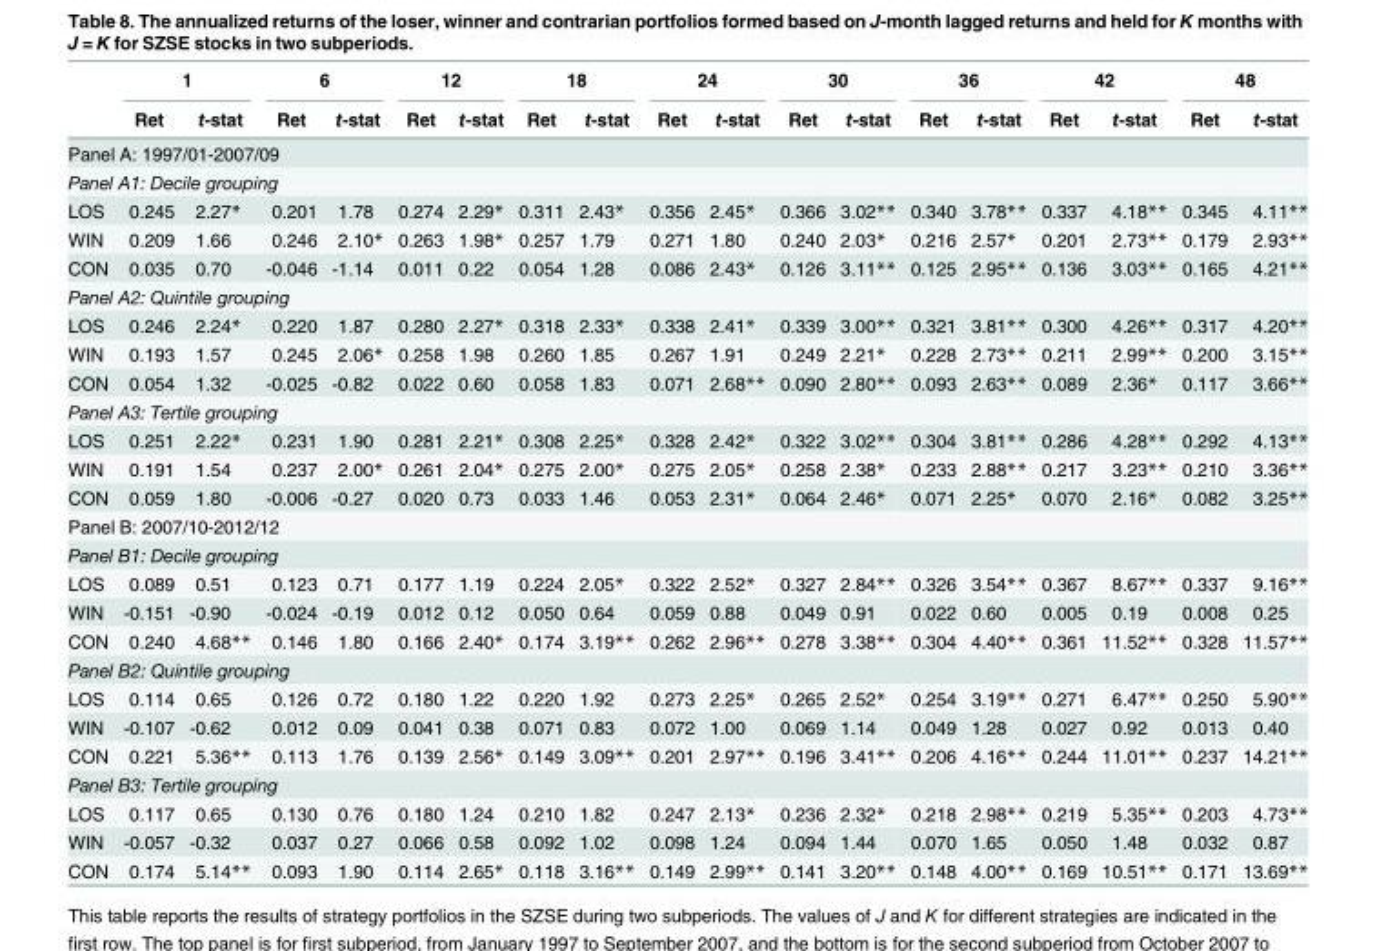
<table><thead><tr><td rowspan="2"></td><td colspan="2">1</td><td colspan="2">6</td><td colspan="2">12</td><td colspan="2">18</td><td colspan="2">24</td><td colspan="2">30</td><td colspan="2">36</td><td colspan="2">42</td><td colspan="2">48</td></tr><tr><td>Ret</td><td>t-stat</td><td>Ret</td><td>t-stat</td><td>Ret</td><td>t-stat</td><td>Ret</td><td>t-stat</td><td>Ret</td><td>t-stat</td><td>Ret</td><td>t-stat</td><td>Ret</td><td>t-stat</td><td>Ret</td><td>t-stat</td><td>Ret</td><td>t-stat</td></tr></thead><tbody><tr><td colspan="19">Panel A: 1997/01-2007/09</td></tr><tr><td colspan="19">Panel A1: Decile grouping</td></tr><tr><td>LOS</td><td>0.245</td><td>2.27*</td><td>0.201</td><td>1.78</td><td>0.274</td><td>2.29*</td><td>0.311</td><td>2.43*</td><td>0.356</td><td>2.45*</td><td>0.366</td><td>3.02**</td><td>0.340</td><td>3.78**</td><td>0.337</td><td>4.18**</td><td>0.345</td><td>4.11**</td></tr><tr><td>WIN</td><td>0.209</td><td>1.66</td><td>0.246</td><td>2.10*</td><td>0.263</td><td>1.98*</td><td>0.257</td><td>1.79</td><td>0.271</td><td>1.80</td><td>0.240</td><td>2.03*</td><td>0.216</td><td>2.57*</td><td>0.201</td><td>2.73**</td><td>0.179</td><td>2.93**</td></tr><tr><td>CON</td><td>0.035</td><td>0.70</td><td>-0.046</td><td>-1.14</td><td>0.011</td><td>0.22</td><td>0.054</td><td>1.28</td><td>0.086</td><td>2.43*</td><td>0.126</td><td>3.11**</td><td>0.125</td><td>2.95**</td><td>0.136</td><td>3.03**</td><td>0.165</td><td>4.21**</td></tr><tr><td colspan="19">Panel A2: Quintile grouping</td></tr><tr><td>LOS</td><td>0.246</td><td>2.24*</td><td>0.220</td><td>1.87</td><td>0.280</td><td>2.27*</td><td>0.318</td><td>2.33*</td><td>0.338</td><td>2.41*</td><td>0.339</td><td>3.00**</td><td>0.321</td><td>3.81**</td><td>0.300</td><td>4.26**</td><td>0.317</td><td>4.20**</td></tr><tr><td>WIN</td><td>0.193</td><td>1.57</td><td>0.245</td><td>2.06*</td><td>0.258</td><td>1.98</td><td>0.260</td><td>1.85</td><td>0.267</td><td>1.91</td><td>0.249</td><td>2.21*</td><td>0.228</td><td>2.73**</td><td>0.211</td><td>2.99**</td><td>0.200</td><td>3.15**</td></tr><tr><td>CON</td><td>0.054</td><td>1.32</td><td>-0.025</td><td>-0.82</td><td>0.022</td><td>0.60</td><td>0.058</td><td>1.83</td><td>0.071</td><td>2.68**</td><td>0.090</td><td>2.80**</td><td>0.093</td><td>2.63**</td><td>0.089</td><td>2.36*</td><td>0.117</td><td>3.66**</td></tr><tr><td colspan="19">Panel A3: Tertile grouping</td></tr><tr><td>LOS</td><td>0.251</td><td>2.22*</td><td>0.231</td><td>1.90</td><td>0.281</td><td>2.21*</td><td>0.308</td><td>2.25*</td><td>0.328</td><td>2.42*</td><td>0.322</td><td>3.02**</td><td>0.304</td><td>3.81**</td><td>0.286</td><td>4.28**</td><td>0.292</td><td>4.13**</td></tr><tr><td>WIN</td><td>0.191</td><td>1.54</td><td>0.237</td><td>2.00*</td><td>0.261</td><td>2.04*</td><td>0.275</td><td>2.00*</td><td>0.275</td><td>2.05*</td><td>0.258</td><td>2.38*</td><td>0.233</td><td>2.88**</td><td>0.217</td><td>3.23**</td><td>0.210</td><td>3.36**</td></tr><tr><td>CON</td><td>0.059</td><td>1.80</td><td>-0.006</td><td>-0.27</td><td>0.020</td><td>0.73</td><td>0.033</td><td>1.46</td><td>0.053</td><td>2.31*</td><td>0.064</td><td>2.46*</td><td>0.071</td><td>2.25*</td><td>0.070</td><td>2.16*</td><td>0.082</td><td>3.25**</td></tr><tr><td colspan="19">Panel B: 2007/10-2012/12</td></tr><tr><td colspan="19">Panel B1: Decile grouping</td></tr><tr><td>LOS</td><td>0.089</td><td>0.51</td><td>0.123</td><td>0.71</td><td>0.177</td><td>1.19</td><td>0.224</td><td>2.05*</td><td>0.322</td><td>2.52*</td><td>0.327</td><td>2.84**</td><td>0.326</td><td>3.54**</td><td>0.367</td><td>8.67**</td><td>0.337</td><td>9.16**</td></tr><tr><td>WIN</td><td>-0.151</td><td>-0.90</td><td>-0.024</td><td>-0.19</td><td>0.012</td><td>0.12</td><td>0.050</td><td>0.64</td><td>0.059</td><td>0.88</td><td>0.049</td><td>0.91</td><td>0.022</td><td>0.60</td><td>0.005</td><td>0.19</td><td>0.008</td><td>0.25</td></tr><tr><td>CON</td><td>0.240</td><td>4.68**</td><td>0.146</td><td>1.80</td><td>0.166</td><td>2.40*</td><td>0.174</td><td>3.19**</td><td>0.262</td><td>2.96**</td><td>0.278</td><td>3.38**</td><td>0.304</td><td>4.40**</td><td>0.361</td><td>11.52**</td><td>0.328</td><td>11.57**</td></tr><tr><td colspan="19">Panel B2: Quintile grouping</td></tr><tr><td>LOS</td><td>0.114</td><td>0.65</td><td>0.126</td><td>0.72</td><td>0.180</td><td>1.22</td><td>0.220</td><td>1.92</td><td>0.273</td><td>2.25*</td><td>0.265</td><td>2.52*</td><td>0.254</td><td>3.19**</td><td>0.271</td><td>6.47**</td><td>0.250</td><td>5.90**</td></tr><tr><td>WIN</td><td>-0.107</td><td>-0.62</td><td>0.012</td><td>0.09</td><td>0.041</td><td>0.38</td><td>0.071</td><td>0.83</td><td>0.072</td><td>1.00</td><td>0.069</td><td>1.14</td><td>0.049</td><td>1.28</td><td>0.027</td><td>0.92</td><td>0.013</td><td>0.40</td></tr><tr><td>CON</td><td>0.221</td><td>5.36**</td><td>0.113</td><td>1.76</td><td>0.139</td><td>2.56*</td><td>0.149</td><td>3.09**</td><td>0.201</td><td>2.97**</td><td>0.196</td><td>3.41**</td><td>0.206</td><td>4.16**</td><td>0.244</td><td>11.01**</td><td>0.237</td><td>14.21**</td></tr><tr><td colspan="19">Panel B3: Tertile grouping</td></tr><tr><td>LOS</td><td>0.117</td><td>0.65</td><td>0.130</td><td>0.76</td><td>0.180</td><td>1.24</td><td>0.210</td><td>1.82</td><td>0.247</td><td>2.13*</td><td>0.236</td><td>2.32*</td><td>0.218</td><td>2.98**</td><td>0.219</td><td>5.35**</td><td>0.203</td><td>4.73**</td></tr><tr><td>WIN</td><td>-0.057</td><td>-0.32</td><td>0.037</td><td>0.27</td><td>0.066</td><td>0.58</td><td>0.092</td><td>1.02</td><td>0.098</td><td>1.24</td><td>0.094</td><td>1.44</td><td>0.070</td><td>1.65</td><td>0.050</td><td>1.48</td><td>0.032</td><td>0.87</td></tr><tr><td>CON</td><td>0.174</td><td>5.14**</td><td>0.093</td><td>1.90</td><td>0.114</td><td>2.65*</td><td>0.118</td><td>3.16**</td><td>0.149</td><td>2.99**</td><td>0.141</td><td>3.20**</td><td>0.148</td><td>4.00**</td><td>0.169</td><td>10.51**</td><td>0.171</td><td>13.69**</td></tr></tbody></table>